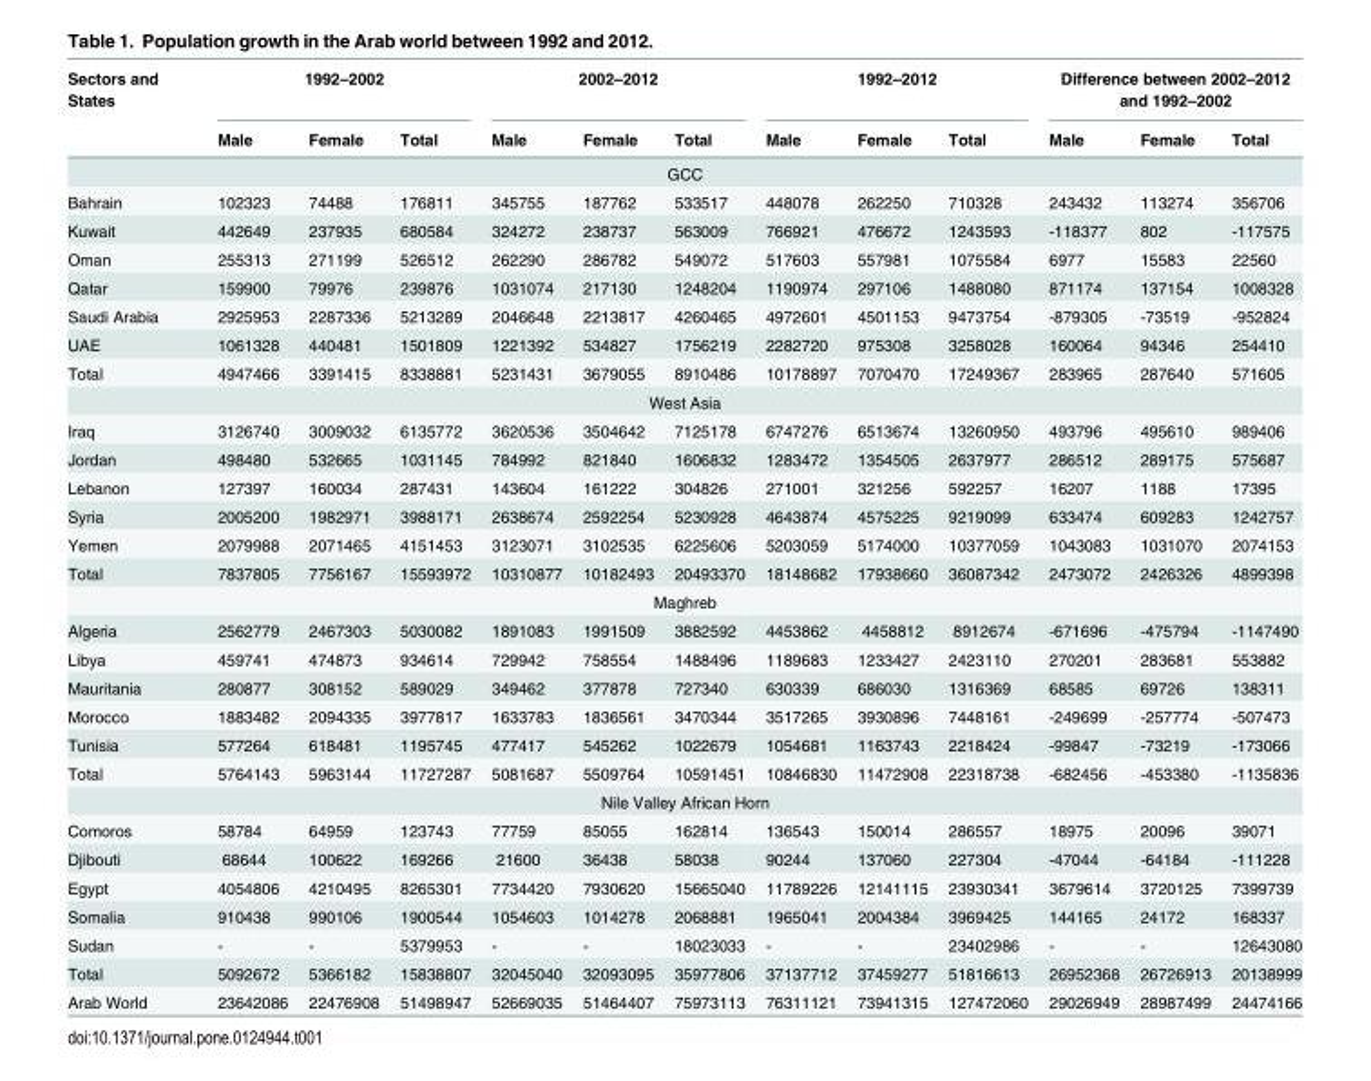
<table><thead><tr><td rowspan="2">Sectors and States</td><td colspan="3">1992–2002</td><td colspan="3">2002–2012</td><td colspan="3">1992–2012</td><td colspan="3">Difference between 2002–2012 and 1992–2002</td></tr><tr><td>Male</td><td>Female</td><td>Total</td><td>Male</td><td>Female</td><td>Total</td><td>Male</td><td>Female</td><td>Total</td><td>Male</td><td>Female</td><td>Total</td></tr></thead><tbody><tr><td colspan="13">GCC</td></tr><tr><td>Bahrain</td><td>102323</td><td>74488</td><td>176811</td><td>345755</td><td>187762</td><td>533517</td><td>448078</td><td>262250</td><td>710328</td><td>243432</td><td>113274</td><td>356706</td></tr><tr><td>Kuwait</td><td>442649</td><td>237935</td><td>680584</td><td>324272</td><td>238737</td><td>563009</td><td>766921</td><td>476672</td><td>1243593</td><td>-118377</td><td>802</td><td>-117575</td></tr><tr><td>Oman</td><td>255313</td><td>271199</td><td>526512</td><td>262290</td><td>286782</td><td>549072</td><td>517603</td><td>557981</td><td>1075584</td><td>6977</td><td>15583</td><td>22560</td></tr><tr><td>Qatar</td><td>159900</td><td>79976</td><td>239876</td><td>1031074</td><td>217130</td><td>1248204</td><td>1190974</td><td>297106</td><td>1488080</td><td>871174</td><td>137154</td><td>1008328</td></tr><tr><td>Saudi Arabia</td><td>2925953</td><td>2287336</td><td>5213289</td><td>2046648</td><td>2213817</td><td>4260465</td><td>4972601</td><td>4501153</td><td>9473754</td><td>-879305</td><td>-73519</td><td>-952824</td></tr><tr><td>UAE</td><td>1061328</td><td>440481</td><td>1501809</td><td>1221392</td><td>534827</td><td>1756219</td><td>2282720</td><td>975308</td><td>3258028</td><td>160064</td><td>94346</td><td>254410</td></tr><tr><td>Total</td><td>4947466</td><td>3391415</td><td>8338881</td><td>5231431</td><td>3679055</td><td>8910486</td><td>10178897</td><td>7070470</td><td>17249367</td><td>283965</td><td>287640</td><td>571605</td></tr><tr><td colspan="13">West Asia</td></tr><tr><td>Iraq</td><td>3126740</td><td>3009032</td><td>6135772</td><td>3620536</td><td>3504642</td><td>7125178</td><td>6747276</td><td>6513674</td><td>13260950</td><td>493796</td><td>495610</td><td>989406</td></tr><tr><td>Jordan</td><td>498480</td><td>532665</td><td>1031145</td><td>784992</td><td>821840</td><td>1606832</td><td>1283472</td><td>1354505</td><td>2637977</td><td>286512</td><td>289175</td><td>575687</td></tr><tr><td>Lebanon</td><td>127397</td><td>160034</td><td>287431</td><td>143604</td><td>161222</td><td>304826</td><td>271001</td><td>321256</td><td>592257</td><td>16207</td><td>1188</td><td>17395</td></tr><tr><td>Syria</td><td>2005200</td><td>1982971</td><td>3988171</td><td>2638674</td><td>2592254</td><td>5230928</td><td>4643874</td><td>4575225</td><td>9219099</td><td>633474</td><td>609283</td><td>1242757</td></tr><tr><td>Yemen</td><td>2079988</td><td>2071465</td><td>4151453</td><td>3123071</td><td>3102535</td><td>6225606</td><td>5203059</td><td>5174000</td><td>10377059</td><td>1043083</td><td>1031070</td><td>2074153</td></tr><tr><td>Total</td><td>7837805</td><td>7756167</td><td>15593972</td><td>10310877</td><td>10182493</td><td>20493370</td><td>18148682</td><td>17938660</td><td>36087342</td><td>2473072</td><td>2426326</td><td>4899398</td></tr><tr><td colspan="13">Maghreb</td></tr><tr><td>Algeria</td><td>2562779</td><td>2467303</td><td>5030082</td><td>1891083</td><td>1991509</td><td>3882592</td><td>4453862</td><td>4458812</td><td>8912674</td><td>-671696</td><td>-475794</td><td>-1147490</td></tr><tr><td>Libya</td><td>459741</td><td>474873</td><td>934614</td><td>729942</td><td>758554</td><td>1488496</td><td>1189683</td><td>1233427</td><td>2423110</td><td>270201</td><td>283681</td><td>553882</td></tr><tr><td>Mauritania</td><td>280877</td><td>308152</td><td>589029</td><td>349462</td><td>377878</td><td>727340</td><td>630339</td><td>686030</td><td>1316369</td><td>68585</td><td>69726</td><td>138311</td></tr><tr><td>Morocco</td><td>1883482</td><td>2094335</td><td>3977817</td><td>1633783</td><td>1836561</td><td>3470344</td><td>3517265</td><td>3930896</td><td>7448161</td><td>-249699</td><td>-257774</td><td>-507473</td></tr><tr><td>Tunisia</td><td>577264</td><td>618481</td><td>1195745</td><td>477417</td><td>545262</td><td>1022679</td><td>1054681</td><td>1163743</td><td>2218424</td><td>-99847</td><td>-73219</td><td>-173066</td></tr><tr><td>Total</td><td>5764143</td><td>5963144</td><td>11727287</td><td>5081687</td><td>5509764</td><td>10591451</td><td>10846830</td><td>11472908</td><td>22318738</td><td>-682456</td><td>-453380</td><td>-1135836</td></tr><tr><td colspan="13">Nile Valley African Horn</td></tr><tr><td>Comoros</td><td>58784</td><td>64959</td><td>123743</td><td>77759</td><td>85055</td><td>162814</td><td>136543</td><td>150014</td><td>286557</td><td>18975</td><td>20096</td><td>39071</td></tr><tr><td>Djibouti</td><td>68644</td><td>100622</td><td>169266</td><td>21600</td><td>36438</td><td>58038</td><td>90244</td><td>137060</td><td>227304</td><td>-47044</td><td>-64184</td><td>-111228</td></tr><tr><td>Egypt</td><td>4054806</td><td>4210495</td><td>8265301</td><td>7734420</td><td>7930620</td><td>15665040</td><td>11789226</td><td>12141115</td><td>23930341</td><td>3679614</td><td>3720125</td><td>7399739</td></tr><tr><td>Somalia</td><td>910438</td><td>990106</td><td>1900544</td><td>1054603</td><td>1014278</td><td>2068881</td><td>1965041</td><td>2004384</td><td>3969425</td><td>144165</td><td>24172</td><td>168337</td></tr><tr><td>Sudan</td><td>-</td><td>-</td><td>5379953</td><td>-</td><td>-</td><td>18023033</td><td>-</td><td>-</td><td>23402986</td><td>-</td><td>-</td><td>12643080</td></tr><tr><td>Total</td><td>5092672</td><td>5366182</td><td>15838807</td><td>32045040</td><td>32093095</td><td>35977806</td><td>37137712</td><td>37459277</td><td>51816613</td><td>26952368</td><td>26726913</td><td>20138999</td></tr><tr><td>Arab World</td><td>23642086</td><td>22476908</td><td>51498947</td><td>52669035</td><td>51464407</td><td>75973113</td><td>76311121</td><td>73941315</td><td>127472060</td><td>29026949</td><td>28987499</td><td>24474166</td></tr></tbody></table>